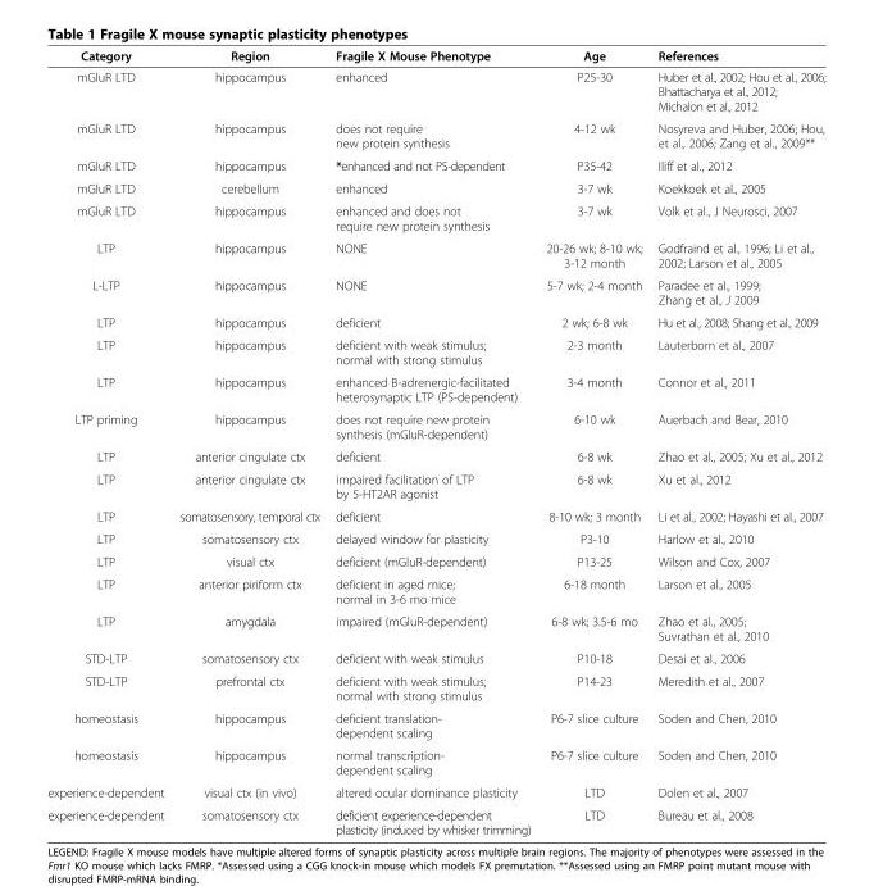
<table><thead><tr><td>Category</td><td>Region</td><td>Fragile X Mouse Phenotype</td><td>Age</td><td>References</td></tr></thead><tbody><tr><td>mGluR LTD</td><td>hippocampus</td><td>enhanced</td><td>P25-30</td><td>Huber et al., 2002; Hou et al., 2006; Bhattacharya et al., 2012; Michalon et al., 2012</td></tr><tr><td>mGluR LTD</td><td>hippocampus</td><td>does not require new protein synthesis</td><td>4-12 wk</td><td>Nosyreva and Huber, 2006; Hou, et al., 2006; Zang et al., 2009**</td></tr><tr><td>mGluR LTD</td><td>hippocampus</td><td>*enhanced and not PS-dependent</td><td>P35-42</td><td>Iliff et al., 2012</td></tr><tr><td>mGluR LTD</td><td>cerebellum</td><td>enhanced</td><td>3-7 wk</td><td>Koekkoek et al., 2005</td></tr><tr><td>mGluR LTD</td><td>hippocampus</td><td>enhanced and does not require new protein synthesis</td><td>3-7 wk</td><td>Volk et al., J Neurosci, 2007</td></tr><tr><td>LTP</td><td>hippocampus</td><td>NONE</td><td>20-26 wk; 8-10 wk; 3-12 month</td><td>Godfraind et al., 1996; Li et al., 2002; Larson et al., 2005</td></tr><tr><td>L-LTP</td><td>hippocampus</td><td>NONE</td><td>5-7 wk; 2-4 month</td><td>Paradee et al., 1999; Zhang et al., J 2009</td></tr><tr><td>LTP</td><td>hippocampus</td><td>deficient</td><td>2 wk; 6-8 wk</td><td>Hu et al., 2008; Shang et al., 2009</td></tr><tr><td>LTP</td><td>hippocampus</td><td>deficient with weak stimulus; normal with strong stimulus</td><td>2-3 month</td><td>Lauterborn et al., 2007</td></tr><tr><td>LTP</td><td>hippocampus</td><td>enhanced B-adrenergic-facilitated heterosynaptic LTP (PS-dependent)</td><td>3-4 month</td><td>Connor et al., 2011</td></tr><tr><td>LTP priming</td><td>hippocampus</td><td>does not require new protein synthesis (mGluR-dependent)</td><td>6-10 wk</td><td>Auerbach and Bear, 2010</td></tr><tr><td>LTP</td><td>anterior cingulate ctx</td><td>deficient</td><td>6-8 wk</td><td>Zhao et al., 2005; Xu et al., 2012</td></tr><tr><td>LTP</td><td>anterior cingulate ctx</td><td>impaired facilitation of LTP by 5-HT2AR agonist</td><td>6-8 wk</td><td>Xu et al., 2012</td></tr><tr><td>LTP</td><td>somatosensory, temporal ctx</td><td>deficient</td><td>8-10 wk; 3 month</td><td>Li et al., 2002; Hayashi et al., 2007</td></tr><tr><td>LTP</td><td>somatosensory ctx</td><td>delayed window for plasticity</td><td>P3-10</td><td>Harlow et al., 2010</td></tr><tr><td>LTP</td><td>visual ctx</td><td>deficient (mGluR-dependent)</td><td>P13-25</td><td>Wilson and Cox, 2007</td></tr><tr><td>LTP</td><td>anterior piriform ctx</td><td>deficient in aged mice; normal in 3-6 mo mice</td><td>6-18 month</td><td>Larson et al., 2005</td></tr><tr><td>LTP</td><td>amygdala</td><td>impaired (mGluR-dependent)</td><td>6-8 wk; 3.5-6 mo</td><td>Zhao et al., 2005; Suvrathan et al., 2010</td></tr><tr><td>STD-LTP</td><td>somatosensory ctx</td><td>deficient with weak stimulus</td><td>P10-18</td><td>Desai et al., 2006</td></tr><tr><td>STD-LTP</td><td>prefrontal ctx</td><td>deficient with weak stimulus; normal with strong stimulus</td><td>P14-23</td><td>Meredith et al., 2007</td></tr><tr><td>homeostasis</td><td>hippocampus</td><td>deficient translation- dependent scaling</td><td>P6-7 slice culture</td><td>Soden and Chen, 2010</td></tr><tr><td>homeostasis</td><td>hippocampus</td><td>normal transcription- dependent scaling</td><td>P6-7 slice culture</td><td>Soden and Chen, 2010</td></tr><tr><td>experience-dependent</td><td>visual ctx (in vivo)</td><td>altered ocular dominance plasticity</td><td>LTD</td><td>Dolen et al., 2007</td></tr><tr><td>experience-dependent</td><td>somatosensory ctx</td><td>deficient experience-dependent plasticity (induced by whisker trimming)</td><td>LTD</td><td>Bureau et al., 2008</td></tr></tbody></table>